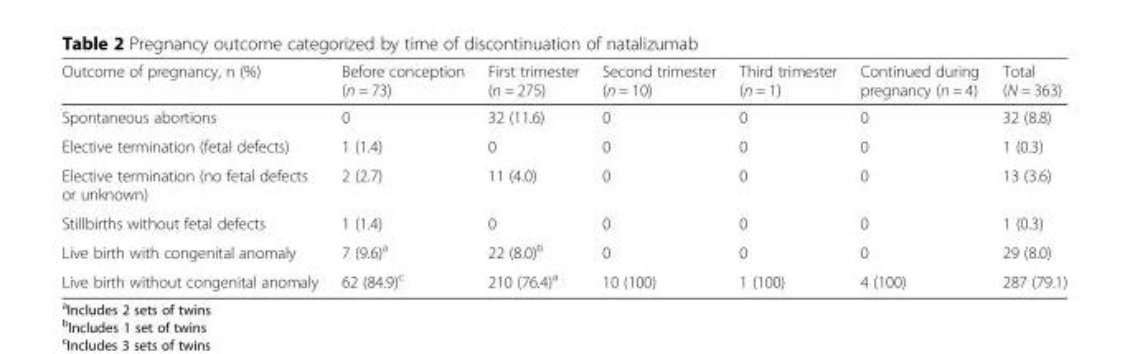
<table><thead><tr><td>Outcome of pregnancy, n (%)</td><td>Before conception (n = 73)</td><td>First trimester (n = 275)</td><td>Second trimester (n = 10)</td><td>Third trimester (n = 1)</td><td>Continued during pregnancy (n = 4)</td><td>Total (N = 363)</td></tr></thead><tbody><tr><td>Spontaneous abortions</td><td>0</td><td>32 (11.6)</td><td>0</td><td>0</td><td>0</td><td>32 (8.8)</td></tr><tr><td>Elective termination (fetal defects)</td><td>1 (1.4)</td><td>0</td><td>0</td><td>0</td><td>0</td><td>1 (0.3)</td></tr><tr><td>Elective termination (no fetal defects or unknown)</td><td>2 (2.7)</td><td>11 (4.0)</td><td>0</td><td>0</td><td>0</td><td>13 (3.6)</td></tr><tr><td>Stillbirths without fetal defects</td><td>1 (1.4)</td><td>0</td><td>0</td><td>0</td><td>0</td><td>1 (0.3)</td></tr><tr><td>Live birth with congenital anomaly</td><td>7 (9.6)<sup>a</sup></td><td>22 (8.0)<sup>b</sup></td><td>0</td><td>0</td><td>0</td><td>29 (8.0)</td></tr><tr><td>Live birth without congenital anomaly</td><td>62 (84.9)<sup>c</sup></td><td>210 (76.4)<sup>a</sup></td><td>10 (100)</td><td>1 (100)</td><td>4 (100)</td><td>287 (79.1)</td></tr></tbody></table>